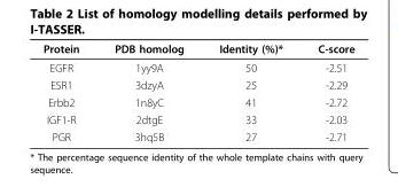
<table><thead><tr><td>Protein</td><td>PDB homolog</td><td>Identity (%)*</td><td>C-score</td></tr></thead><tbody><tr><td>EGFR</td><td>1yy9A</td><td>50</td><td>-2.51</td></tr><tr><td>ESR1</td><td>3dzyA</td><td>25</td><td>-2.29</td></tr><tr><td>Erbb2</td><td>1n8yC</td><td>41</td><td>-2.72</td></tr><tr><td>IGF1-R</td><td>2dtgE</td><td>33</td><td>-2.03</td></tr><tr><td>PGR</td><td>3hq5B</td><td>27</td><td>-2.71</td></tr></tbody></table>